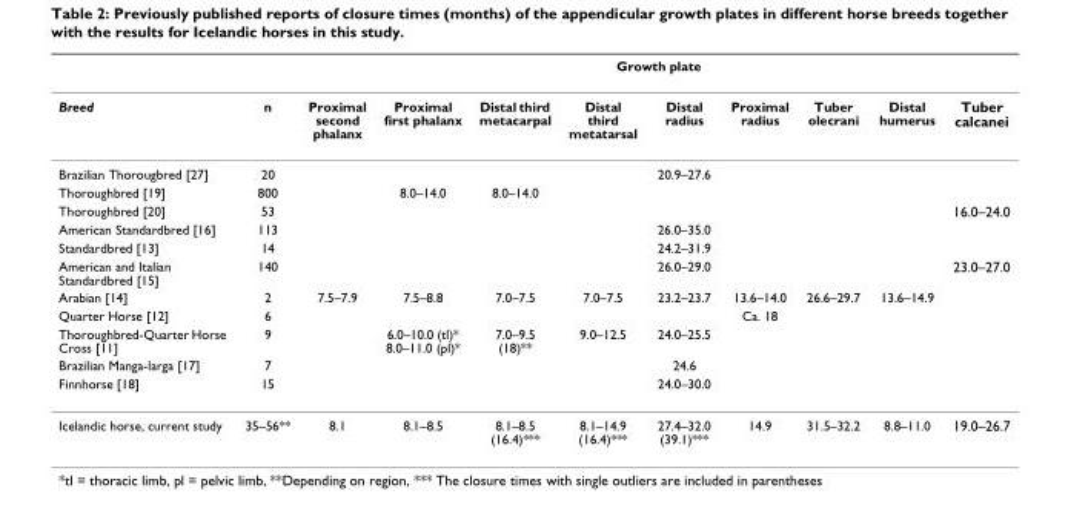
<table><thead><tr><td rowspan="2">Breed</td><td rowspan="2">n</td><td colspan="9">Growth plate</td></tr><tr><td>Proximal second phalanx</td><td>Proximal first phalanx</td><td>Distal third metacarpal</td><td>Distal third metatarsal</td><td>Distal radius</td><td>Proximal radius</td><td>Tuber olecrani</td><td>Distal humerus</td><td>Tuber calcanei</td></tr></thead><tbody><tr><td>Brazilian Thorougbred [27]</td><td>20</td><td></td><td></td><td></td><td></td><td>20.9–27.6</td><td></td><td></td><td></td><td></td></tr><tr><td>Thoroughbred [19]</td><td>800</td><td></td><td>8.0–14.0</td><td>8.0–14.0</td><td></td><td></td><td></td><td></td><td></td><td></td></tr><tr><td>Thoroughbred [20]</td><td>53</td><td></td><td></td><td></td><td></td><td></td><td></td><td></td><td></td><td>16.0–24.0</td></tr><tr><td>American Standardbred [16]</td><td>113</td><td></td><td></td><td></td><td></td><td>26.0–35.0</td><td></td><td></td><td></td><td></td></tr><tr><td>Standardbred [13]</td><td>14</td><td></td><td></td><td></td><td></td><td>24.2–31.9</td><td></td><td></td><td></td><td></td></tr><tr><td>American and Italian Standardbred [15]</td><td>140</td><td></td><td></td><td></td><td></td><td>26.0–29.0</td><td></td><td></td><td></td><td>23.0–27.0</td></tr><tr><td>Arabian [14]</td><td>2</td><td>7.5–7.9</td><td>7.5–8.8</td><td>7.0–7.5</td><td>7.0–7.5</td><td>23.2–23.7</td><td>13.6–14.0</td><td>26.6–29.7</td><td>13.6–14.9</td><td></td></tr><tr><td>Quarter Horse [12]</td><td>6</td><td></td><td></td><td></td><td></td><td></td><td>Ca. 18</td><td></td><td></td><td></td></tr><tr><td>Thoroughbred-Quarter Horse Cross [11]</td><td>9</td><td></td><td>6.0–10.0 (tl)* 8.0–11.0 (pl)*</td><td>7.0–9.5 (18)**</td><td>9.0–12.5</td><td>24.0–25.5</td><td></td><td></td><td></td><td></td></tr><tr><td>Brazilian Manga-larga [17]</td><td>7</td><td></td><td></td><td></td><td></td><td>24.6</td><td></td><td></td><td></td><td></td></tr><tr><td>Finnhorse [18]</td><td>15</td><td></td><td></td><td></td><td></td><td>24.0–30.0</td><td></td><td></td><td></td><td></td></tr><tr><td>Icelandic horse, current study</td><td>35–56**</td><td>8.1</td><td>8.1–8.5</td><td>8.1–8.5 (16.4)***</td><td>8.1–14.9 (16.4)***</td><td>27.4–32.0 (39.1)***</td><td>14.9</td><td>31.5–32.2</td><td>8.8–11.0</td><td>19.0–26.7</td></tr></tbody></table>